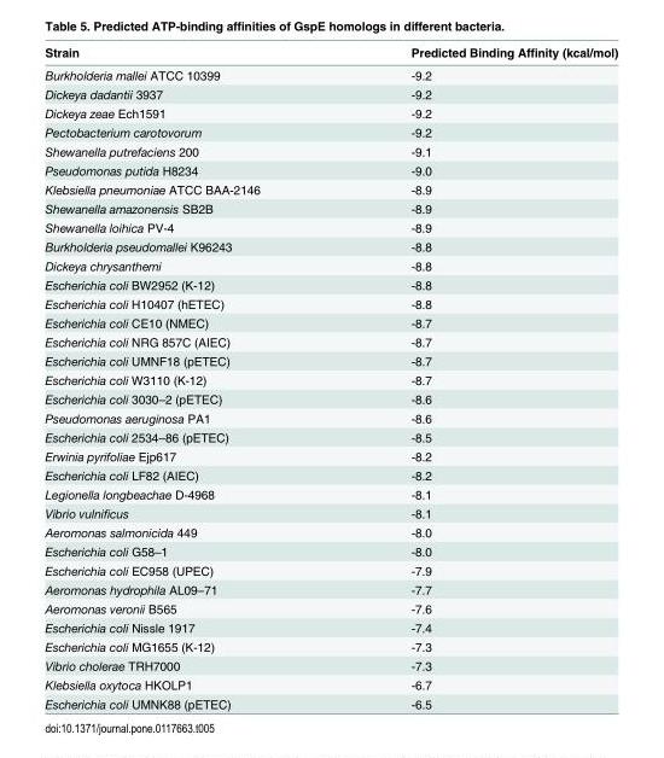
<table><thead><tr><td>Strain</td><td>Predicted Binding Affinity (kcal/mol)</td></tr></thead><tbody><tr><td>Burkholderia mallei ATCC 10399</td><td>-9.2</td></tr><tr><td>Dickeya dadantii 3937</td><td>-9.2</td></tr><tr><td>Dickeya zeae Ech1591</td><td>-9.2</td></tr><tr><td>Pectobacterium carotovorum</td><td>-9.2</td></tr><tr><td>Shewanella putrefaciens 200</td><td>-9.1</td></tr><tr><td>Pseudomonas putida H8234</td><td>-9.0</td></tr><tr><td>Klebsiella pneumoniae ATCC BAA-2146</td><td>-8.9</td></tr><tr><td>Shewanella amazonensis SB2B</td><td>-8.9</td></tr><tr><td>Shewanella loihica PV-4</td><td>-8.9</td></tr><tr><td>Burkholderia pseudomallei K96243</td><td>-8.8</td></tr><tr><td>Dickeya chrysanthemi</td><td>-8.8</td></tr><tr><td>Escherichia coli BW2952 (K-12)</td><td>-8.8</td></tr><tr><td>Escherichia coli H10407 (hETEC)</td><td>-8.8</td></tr><tr><td>Escherichia coli CE10 (NMEC)</td><td>-8.7</td></tr><tr><td>Escherichia coli NRG 857C (AIEC)</td><td>-8.7</td></tr><tr><td>Escherichia coli UMNF18 (pETEC)</td><td>-8.7</td></tr><tr><td>Escherichia coli W3110 (K-12)</td><td>-8.7</td></tr><tr><td>Escherichia coli 3030–2 (pETEC)</td><td>-8.6</td></tr><tr><td>Pseudomonas aeruginosa PA1</td><td>-8.6</td></tr><tr><td>Escherichia coli 2534–86 (pETEC)</td><td>-8.5</td></tr><tr><td>Erwinia pyrifoliae Ejp617</td><td>-8.2</td></tr><tr><td>Escherichia coli LF82 (AIEC)</td><td>-8.2</td></tr><tr><td>Legionella longbeachae D-4968</td><td>-8.1</td></tr><tr><td>Vibrio vulnificus</td><td>-8.1</td></tr><tr><td>Aeromonas salmonicida 449</td><td>-8.0</td></tr><tr><td>Escherichia coli G58–1</td><td>-8.0</td></tr><tr><td>Escherichia coli EC958 (UPEC)</td><td>-7.9</td></tr><tr><td>Aeromonas hydrophila AL09–71</td><td>-7.7</td></tr><tr><td>Aeromonas veronii B565</td><td>-7.6</td></tr><tr><td>Escherichia coli Nissle 1917</td><td>-7.4</td></tr><tr><td>Escherichia coli MG1655 (K-12)</td><td>-7.3</td></tr><tr><td>Vibrio cholerae TRH7000</td><td>-7.3</td></tr><tr><td>Klebsiella oxytoca HKOLP1</td><td>-6.7</td></tr><tr><td>Escherichia coli UMNK88 (pETEC)</td><td>-6.5</td></tr></tbody></table>